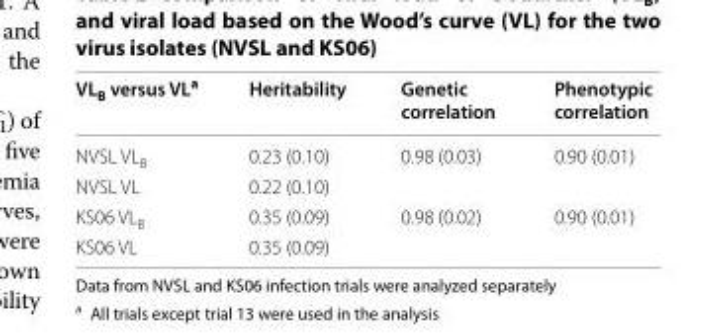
<table><thead><tr><td>VL<sub>B</sub> versus VL<sup>a</sup></td><td>Heritability</td><td>Genetic correlation</td><td>Phenotypic correlation</td></tr></thead><tbody><tr><td>NVSL VL<sub>B</sub></td><td>0.23 (0.10)</td><td>0.98 (0.03)</td><td>0.90 (0.01)</td></tr><tr><td>NVSL VL</td><td>0.22 (0.10)</td><td></td><td></td></tr><tr><td>KS06 VL<sub>B</sub></td><td>0.35 (0.09)</td><td>0.98 (0.02)</td><td>0.90 (0.01)</td></tr><tr><td>KS06 VL</td><td>0.35 (0.09)</td><td></td><td></td></tr></tbody></table>